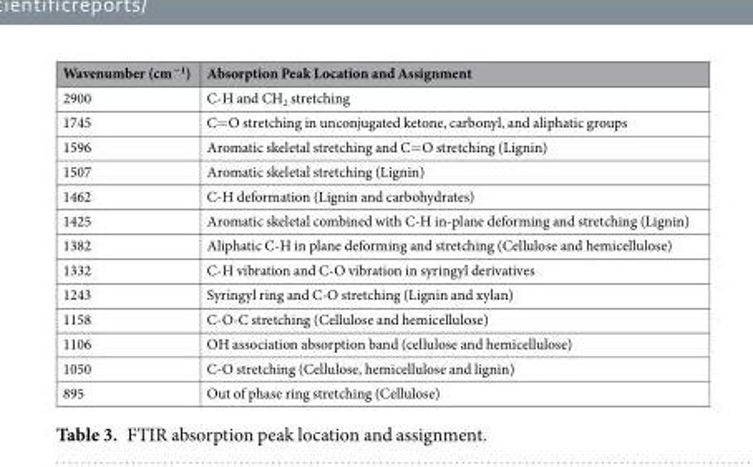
<table><thead><tr><td>Wavenumber (cm<sup>−1</sup>)</td><td>Absorption Peak Location and Assignment</td></tr></thead><tbody><tr><td>2900</td><td>C-H and CH<sub>2</sub> stretching</td></tr><tr><td>1745</td><td>C=O stretching in unconjugated ketone, carbonyl, and aliphatic groups</td></tr><tr><td>1596</td><td>Aromatic skeletal stretching and C=O stretching (Lignin)</td></tr><tr><td>1507</td><td>Aromatic skeletal stretching (Lignin)</td></tr><tr><td>1462</td><td>C-H deformation (Lignin and carbohydrates)</td></tr><tr><td>1425</td><td>Aromatic skeletal combined with C-H in-plane deforming and stretching (Lignin)</td></tr><tr><td>1382</td><td>Aliphatic C-H in plane deforming and stretching (Cellulose and hemicellulose)</td></tr><tr><td>1332</td><td>C-H vibration and C-O vibration in syringyl derivatives</td></tr><tr><td>1243</td><td>Syringyl ring and C-O stretching (Lignin and xylan)</td></tr><tr><td>1158</td><td>C-O-C stretching (Cellulose and hemicellulose)</td></tr><tr><td>1106</td><td>OH association absorption band (cellulose and hemicellulose)</td></tr><tr><td>1050</td><td>C-O stretching (Cellulose, hemicellulose and lignin)</td></tr><tr><td>895</td><td>Out of phase ring stretching (Cellulose)</td></tr></tbody></table>